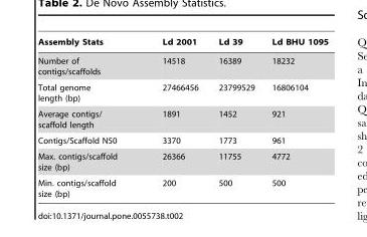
<table><thead><tr><td>Assembly Stats</td><td>Ld 2001</td><td>Ld 39</td><td>Ld BHU 1095</td></tr></thead><tbody><tr><td>Number of contigs/scaffolds</td><td>14518</td><td>16389</td><td>18232</td></tr><tr><td>Total genome length (bp)</td><td>27466456</td><td>23799529</td><td>16806104</td></tr><tr><td>Average contigs/ scaffold length</td><td>1891</td><td>1452</td><td>921</td></tr><tr><td>Contigs/Scaffold N50</td><td>3370</td><td>1773</td><td>961</td></tr><tr><td>Max. contigs/scaffold size (bp)</td><td>26366</td><td>11755</td><td>4772</td></tr><tr><td>Min. contigs/scaffold size (bp)</td><td>200</td><td>500</td><td>500</td></tr></tbody></table>